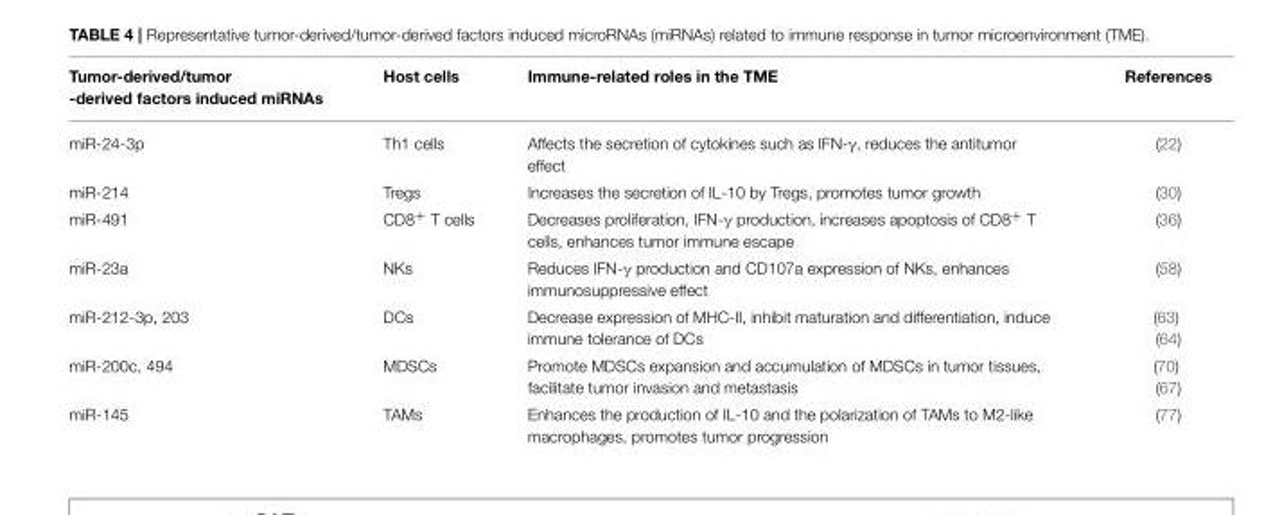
<table><thead><tr><td>Tumor-derived/tumor -derived factors induced miRNAs</td><td>Host cells</td><td>Immune-related roles in the TME</td><td>References</td></tr></thead><tbody><tr><td>miR-24-3p</td><td>Th1 cells</td><td>Affects the secretion of cytokines such as IFN-γ, reduces the antitumor effect</td><td>(22)</td></tr><tr><td>miR-214</td><td>Tregs</td><td>Increases the secretion of IL-10 by Tregs, promotes tumor growth</td><td>(30)</td></tr><tr><td>miR-491</td><td>CD8<sup>+</sup> T cells</td><td>Decreases proliferation, IFN-γ production, increases apoptosis of CD8<sup>+</sup> T cells, enhances tumor immune escape</td><td>(36)</td></tr><tr><td>miR-23a</td><td>NKs</td><td>Reduces IFN-γ production and CD107a expression of NKs, enhances immunosuppressive effect</td><td>(58)</td></tr><tr><td>miR-212-3p, 203</td><td>DCs</td><td>Decrease expression of MHC-II, inhibit maturation and differentiation, induce immune tolerance of DCs</td><td>(63) (64)</td></tr><tr><td>miR-200c, 494</td><td>MDSCs</td><td>Promote MDSCs expansion and accumulation of MDSCs in tumor tissues, facilitate tumor invasion and metastasis</td><td>(70) (67)</td></tr><tr><td>miR-145</td><td>TAMs</td><td>Enhances the production of IL-10 and the polarization of TAMs to M2-like macrophages, promotes tumor progression</td><td>(77)</td></tr></tbody></table>